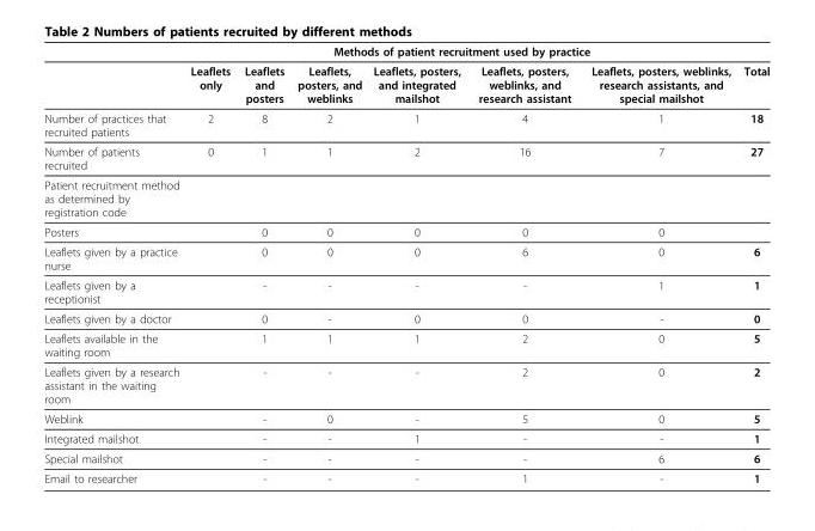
<table><thead><tr><td rowspan="2"></td><td colspan="6">Methods of patient recruitment used by practice</td><td rowspan="2">Total</td></tr><tr><td>Leaflets only</td><td>Leaflets and posters</td><td>Leaflets, posters, and weblinks</td><td>Leaflets, posters, and integrated mailshot</td><td>Leaflets, posters, weblinks, and research assistant</td><td>Leaflets, posters, weblinks, research assistants, and special mailshot</td></tr></thead><tbody><tr><td>Number of practices that recruited patients</td><td>2</td><td>8</td><td>2</td><td>1</td><td>4</td><td>1</td><td>18</td></tr><tr><td>Number of patients recruited</td><td>0</td><td>1</td><td>1</td><td>2</td><td>16</td><td>7</td><td>27</td></tr><tr><td colspan="8">Patient recruitment method as determined by registration code</td></tr><tr><td>Posters</td><td></td><td>0</td><td>0</td><td>0</td><td>0</td><td>0</td><td></td></tr><tr><td>Leaflets given by a practice nurse</td><td></td><td>0</td><td>0</td><td>0</td><td>6</td><td>0</td><td>6</td></tr><tr><td>Leaflets given by a receptionist</td><td></td><td>-</td><td>-</td><td>-</td><td>-</td><td>1</td><td>1</td></tr><tr><td>Leaflets given by a doctor</td><td></td><td>0</td><td>-</td><td>0</td><td>0</td><td>-</td><td>0</td></tr><tr><td>Leaflets available in the waiting room</td><td></td><td>1</td><td>1</td><td>1</td><td>2</td><td>0</td><td>5</td></tr><tr><td>Leaflets given by a research assistant in the waiting room</td><td></td><td>-</td><td>-</td><td>-</td><td>2</td><td>0</td><td>2</td></tr><tr><td>Weblink</td><td></td><td>-</td><td>0</td><td>-</td><td>5</td><td>0</td><td>5</td></tr><tr><td>Integrated mailshot</td><td></td><td>-</td><td>-</td><td>1</td><td>-</td><td>-</td><td>1</td></tr><tr><td>Special mailshot</td><td></td><td>-</td><td>-</td><td>-</td><td>-</td><td>6</td><td>6</td></tr><tr><td>Email to researcher</td><td></td><td>-</td><td>-</td><td>-</td><td>1</td><td>-</td><td>1</td></tr></tbody></table>